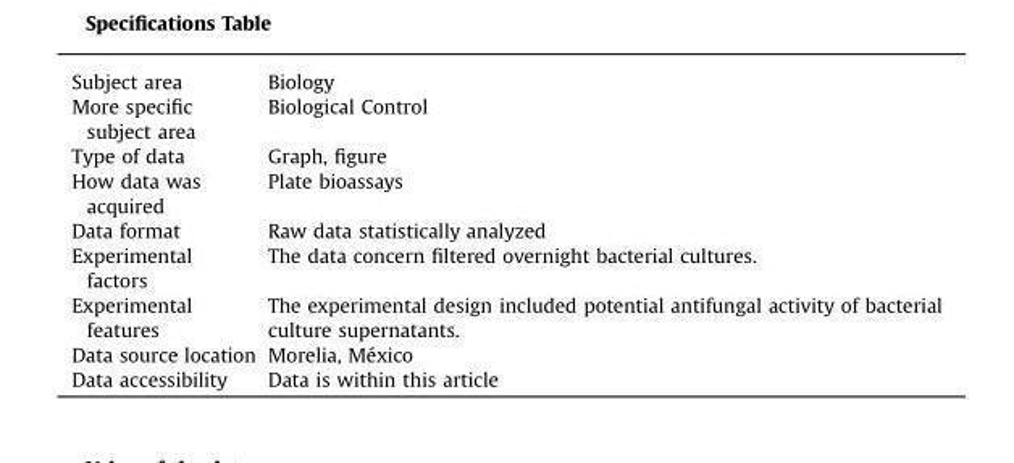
<table><tbody><tr><td>Subject area</td><td>Biology</td></tr><tr><td>More specific subject area</td><td>Biological Control</td></tr><tr><td>Type of data</td><td>Graph, figure</td></tr><tr><td>How data was acquired</td><td>Plate bioassays</td></tr><tr><td>Data format</td><td>Raw data statistically analyzed</td></tr><tr><td>Experimental factors</td><td>The data concern filtered overnight bacterial cultures.</td></tr><tr><td>Experimental features</td><td>The experimental design included potential antifungal activity of bacterial culture supernatants.</td></tr><tr><td>Data source location</td><td>Morelia, México</td></tr><tr><td>Data accessibility</td><td>Data is within this article</td></tr></tbody></table>